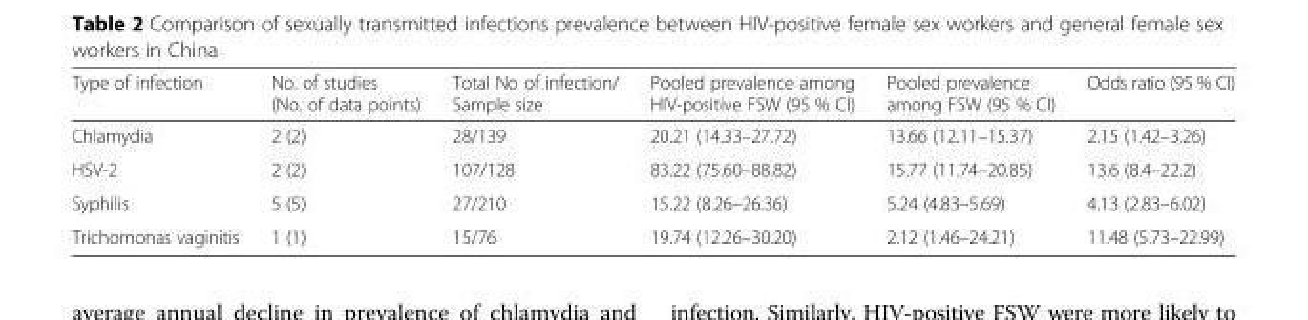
<table><thead><tr><td>Type of infection</td><td>No. of studies (No. of data points)</td><td>Total No of infection/ Sample size</td><td>Pooled prevalence among HIV-positive FSW (95 % CI)</td><td>Pooled prevalence among FSW (95 % CI)</td><td>Odds ratio (95 % CI)</td></tr></thead><tbody><tr><td>Chlamydia</td><td>2 (2)</td><td>28/139</td><td>20.21 (14.33–27.72)</td><td>13.66 (12.11–15.37)</td><td>2.15 (1.42–3.26)</td></tr><tr><td>HSV-2</td><td>2 (2)</td><td>107/128</td><td>83.22 (75.60–88.82)</td><td>15.77 (11.74–20.85)</td><td>13.6 (8.4–22.2)</td></tr><tr><td>Syphilis</td><td>5 (5)</td><td>27/210</td><td>15.22 (8.26–26.36)</td><td>5.24 (4.83–5.69)</td><td>4.13 (2.83–6.02)</td></tr><tr><td>Trichomonas vaginitis</td><td>1 (1)</td><td>15/76</td><td>19.74 (12.26–30.20)</td><td>2.12 (1.46–24.21)</td><td>11.48 (5.73–22.99)</td></tr></tbody></table>